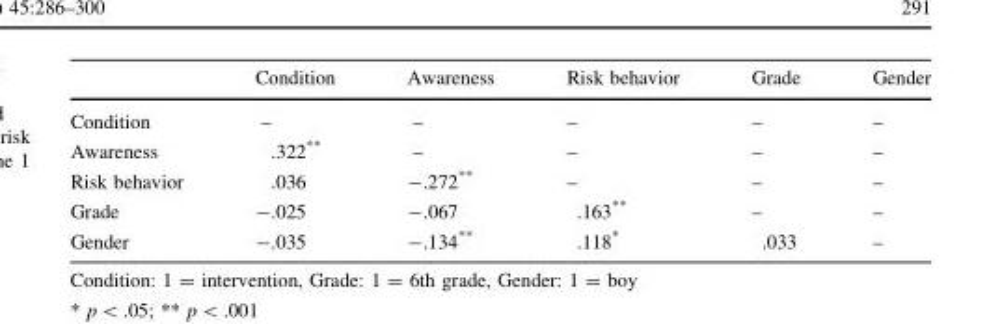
<table><thead><tr><td></td><td>Condition</td><td>Awareness</td><td>Risk behavior</td><td>Grade</td><td>Gender</td></tr></thead><tbody><tr><td>Condition</td><td>–</td><td>–</td><td>–</td><td>–</td><td>–</td></tr><tr><td>Awareness</td><td>.322**</td><td>–</td><td>–</td><td>–</td><td>–</td></tr><tr><td>Risk behavior</td><td>.036</td><td>-.272**</td><td>–</td><td>–</td><td>–</td></tr><tr><td>Grade</td><td>-.025</td><td>-.067</td><td>.163**</td><td>–</td><td>–</td></tr><tr><td>Gender</td><td>-.035</td><td>-.134**</td><td>.118*</td><td>.033</td><td>–</td></tr></tbody></table>